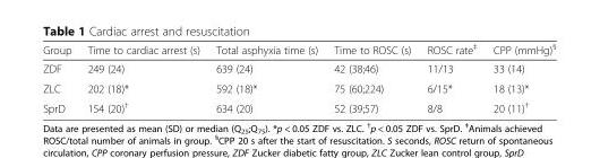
<table><thead><tr><td>Group</td><td>Time to cardiac arrest (s)</td><td>Total asphyxia time (s)</td><td>Time to ROSC (s)</td><td>ROSC rate<sup>‡</sup></td><td>CPP (mmHg)<sup>§</sup></td></tr></thead><tbody><tr><td>ZDF</td><td>249 (24)</td><td>639 (24)</td><td>42 (38;46)</td><td>11/13</td><td>33 (14)</td></tr><tr><td>ZLC</td><td>202 (18)*</td><td>592 (18)*</td><td>75 (60;224)</td><td>6/15*</td><td>18 (13)*</td></tr><tr><td>SprD</td><td>154 (20)<sup>†</sup></td><td>634 (20)</td><td>52 (39;57)</td><td>8/8</td><td>20 (11)<sup>†</sup></td></tr></tbody></table>